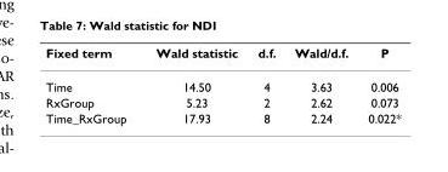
<table><thead><tr><td>Fixed term</td><td>Wald statistic</td><td>d.f.</td><td>Wald/d.f.</td><td>P</td></tr></thead><tbody><tr><td>Time</td><td>14.50</td><td>4</td><td>3.63</td><td>0.006</td></tr><tr><td>RxGroup</td><td>5.23</td><td>2</td><td>2.62</td><td>0.073</td></tr><tr><td>Time_RxGroup</td><td>17.93</td><td>8</td><td>2.24</td><td>0.022*</td></tr></tbody></table>